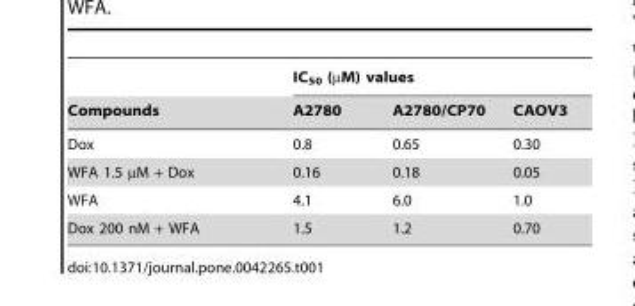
<table><thead><tr><td rowspan="2">Compounds</td><td colspan="3">IC<sub>50</sub> (µM) values</td></tr><tr><td>A2780</td><td>A2780/CP70</td><td>CAOV3</td></tr></thead><tbody><tr><td>Dox</td><td>0.8</td><td>0.65</td><td>0.30</td></tr><tr><td>WFA 1.5 µM + Dox</td><td>0.16</td><td>0.18</td><td>0.05</td></tr><tr><td>WFA</td><td>4.1</td><td>6.0</td><td>1.0</td></tr><tr><td>Dox 200 nM + WFA</td><td>1.5</td><td>1.2</td><td>0.70</td></tr></tbody></table>